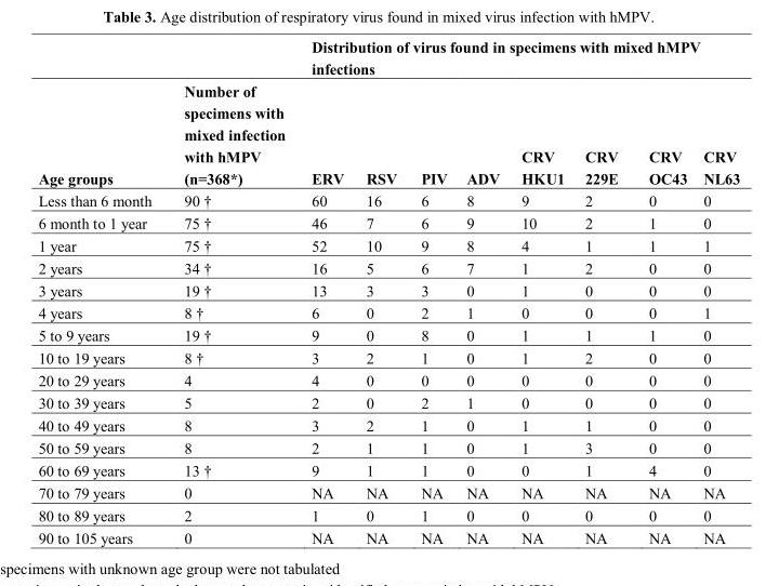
<table><thead><tr><td rowspan="2">Age groups</td><td rowspan="2">Number of specimens with mixed infection with hMPV (n=368*)</td><td colspan="8">Distribution of virus found in specimens with mixed hMPV infections</td></tr><tr><td>ERV</td><td>RSV</td><td>PIV</td><td>ADV</td><td>CRV HKU1</td><td>CRV 229E</td><td>CRV OC43</td><td>CRV NL63</td></tr></thead><tbody><tr><td>Less than 6 month</td><td>90 †</td><td>60</td><td>16</td><td>6</td><td>8</td><td>9</td><td>2</td><td>0</td><td>0</td></tr><tr><td>6 month to 1 year</td><td>75 †</td><td>46</td><td>7</td><td>6</td><td>9</td><td>10</td><td>2</td><td>1</td><td>0</td></tr><tr><td>1 year</td><td>75 †</td><td>52</td><td>10</td><td>9</td><td>8</td><td>4</td><td>1</td><td>1</td><td>1</td></tr><tr><td>2 years</td><td>34 †</td><td>16</td><td>5</td><td>6</td><td>7</td><td>1</td><td>2</td><td>0</td><td>0</td></tr><tr><td>3 years</td><td>19 †</td><td>13</td><td>3</td><td>3</td><td>0</td><td>1</td><td>0</td><td>0</td><td>0</td></tr><tr><td>4 years</td><td>8 †</td><td>6</td><td>0</td><td>2</td><td>1</td><td>0</td><td>0</td><td>0</td><td>1</td></tr><tr><td>5 to 9 years</td><td>19 †</td><td>9</td><td>0</td><td>8</td><td>0</td><td>1</td><td>1</td><td>1</td><td>0</td></tr><tr><td>10 to 19 years</td><td>8 †</td><td>3</td><td>2</td><td>1</td><td>0</td><td>1</td><td>2</td><td>0</td><td>0</td></tr><tr><td>20 to 29 years</td><td>4</td><td>4</td><td>0</td><td>0</td><td>0</td><td>0</td><td>0</td><td>0</td><td>0</td></tr><tr><td>30 to 39 years</td><td>5</td><td>2</td><td>0</td><td>2</td><td>1</td><td>0</td><td>0</td><td>0</td><td>0</td></tr><tr><td>40 to 49 years</td><td>8</td><td>3</td><td>2</td><td>1</td><td>0</td><td>1</td><td>1</td><td>0</td><td>0</td></tr><tr><td>50 to 59 years</td><td>8</td><td>2</td><td>1</td><td>1</td><td>0</td><td>1</td><td>3</td><td>0</td><td>0</td></tr><tr><td>60 to 69 years</td><td>13 †</td><td>9</td><td>1</td><td>1</td><td>0</td><td>0</td><td>1</td><td>4</td><td>0</td></tr><tr><td>70 to 79 years</td><td>0</td><td>NA</td><td>NA</td><td>NA</td><td>NA</td><td>NA</td><td>NA</td><td>NA</td><td>NA</td></tr><tr><td>80 to 89 years</td><td>2</td><td>1</td><td>0</td><td>1</td><td>0</td><td>0</td><td>0</td><td>0</td><td>0</td></tr><tr><td>90 to 105 years</td><td>0</td><td>NA</td><td>NA</td><td>NA</td><td>NA</td><td>NA</td><td>NA</td><td>NA</td><td>NA</td></tr></tbody></table>